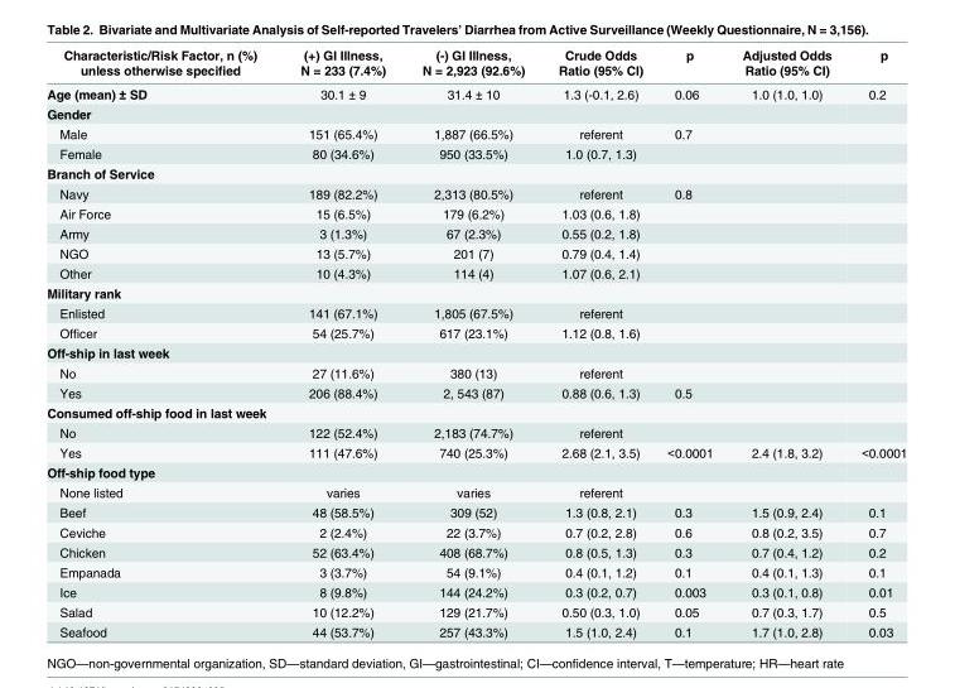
<table><thead><tr><td>Characteristic/Risk Factor, n (%) unless otherwise specified</td><td>(+) GI Illness, N = 233 (7.4%)</td><td>(-) GI Illness, N = 2,923 (92.6%)</td><td>Crude Odds Ratio (95% CI)</td><td>p</td><td>Adjusted Odds Ratio (95% CI)</td><td>p</td></tr></thead><tbody><tr><td>Age (mean) ± SD</td><td>30.1 ± 9</td><td>31.4 ± 10</td><td>1.3 (-0.1, 2.6)</td><td>0.06</td><td>1.0 (1.0, 1.0)</td><td>0.2</td></tr><tr><td colspan="7">Gender</td></tr><tr><td>Male</td><td>151 (65.4%)</td><td>1,887 (66.5%)</td><td>referent</td><td>0.7</td><td></td><td></td></tr><tr><td>Female</td><td>80 (34.6%)</td><td>950 (33.5%)</td><td>1.0 (0.7, 1.3)</td><td></td><td></td><td></td></tr><tr><td colspan="7">Branch of Service</td></tr><tr><td>Navy</td><td>189 (82.2%)</td><td>2,313 (80.5%)</td><td>referent</td><td>0.8</td><td></td><td></td></tr><tr><td>Air Force</td><td>15 (6.5%)</td><td>179 (6.2%)</td><td>1.03 (0.6, 1.8)</td><td></td><td></td><td></td></tr><tr><td>Army</td><td>3 (1.3%)</td><td>67 (2.3%)</td><td>0.55 (0.2, 1.8)</td><td></td><td></td><td></td></tr><tr><td>NGO</td><td>13 (5.7%)</td><td>201 (7)</td><td>0.79 (0.4, 1.4)</td><td></td><td></td><td></td></tr><tr><td>Other</td><td>10 (4.3%)</td><td>114 (4)</td><td>1.07 (0.6, 2.1)</td><td></td><td></td><td></td></tr><tr><td colspan="7">Military rank</td></tr><tr><td>Enlisted</td><td>141 (67.1%)</td><td>1,805 (67.5%)</td><td>referent</td><td></td><td></td><td></td></tr><tr><td>Officer</td><td>54 (25.7%)</td><td>617 (23.1%)</td><td>1.12 (0.8, 1.6)</td><td></td><td></td><td></td></tr><tr><td colspan="7">Off-ship in last week</td></tr><tr><td>No</td><td>27 (11.6%)</td><td>380 (13)</td><td>referent</td><td></td><td></td><td></td></tr><tr><td>Yes</td><td>206 (88.4%)</td><td>2, 543 (87)</td><td>0.88 (0.6, 1.3)</td><td>0.5</td><td></td><td></td></tr><tr><td colspan="7">Consumed off-ship food in last week</td></tr><tr><td>No</td><td>122 (52.4%)</td><td>2,183 (74.7%)</td><td>referent</td><td></td><td></td><td></td></tr><tr><td>Yes</td><td>111 (47.6%)</td><td>740 (25.3%)</td><td>2.68 (2.1, 3.5)</td><td>&lt;0.0001</td><td>2.4 (1.8, 3.2)</td><td>&lt;0.0001</td></tr><tr><td colspan="7">Off-ship food type</td></tr><tr><td>None listed</td><td>varies</td><td>varies</td><td>referent</td><td></td><td></td><td></td></tr><tr><td>Beef</td><td>48 (58.5%)</td><td>309 (52)</td><td>1.3 (0.8, 2.1)</td><td>0.3</td><td>1.5 (0.9, 2.4)</td><td>0.1</td></tr><tr><td>Ceviche</td><td>2 (2.4%)</td><td>22 (3.7%)</td><td>0.7 (0.2, 2.8)</td><td>0.6</td><td>0.8 (0.2, 3.5)</td><td>0.7</td></tr><tr><td>Chicken</td><td>52 (63.4%)</td><td>408 (68.7%)</td><td>0.8 (0.5, 1.3)</td><td>0.3</td><td>0.7 (0.4, 1.2)</td><td>0.2</td></tr><tr><td>Empanada</td><td>3 (3.7%)</td><td>54 (9.1%)</td><td>0.4 (0.1, 1.2)</td><td>0.1</td><td>0.4 (0.1, 1.3)</td><td>0.1</td></tr><tr><td>Ice</td><td>8 (9.8%)</td><td>144 (24.2%)</td><td>0.3 (0.2, 0.7)</td><td>0.003</td><td>0.3 (0.1, 0.8)</td><td>0.01</td></tr><tr><td>Salad</td><td>10 (12.2%)</td><td>129 (21.7%)</td><td>0.50 (0.3, 1.0)</td><td>0.05</td><td>0.7 (0.3, 1.7)</td><td>0.5</td></tr><tr><td>Seafood</td><td>44 (53.7%)</td><td>257 (43.3%)</td><td>1.5 (1.0, 2.4)</td><td>0.1</td><td>1.7 (1.0, 2.8)</td><td>0.03</td></tr></tbody></table>